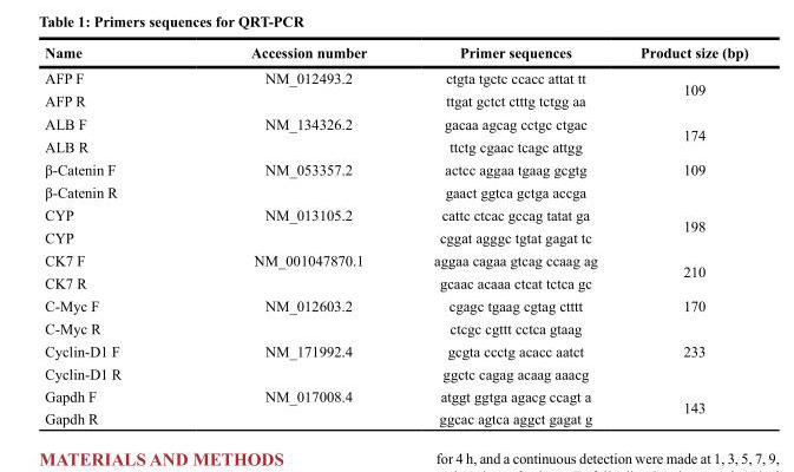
<table><thead><tr><td>Name</td><td>Accession number</td><td>Primer sequences</td><td>Product size (bp)</td></tr></thead><tbody><tr><td>AFP F</td><td>NM_012493.2</td><td>ctgta tgctc ccacc attat tt</td><td rowspan="2">109</td></tr><tr><td>AFP R</td><td></td><td>ttgat gctct ctttg tctgg aa</td></tr><tr><td>ALB F</td><td>NM_134326.2</td><td>gacaa agcag cctgc ctgac</td><td rowspan="2">174</td></tr><tr><td>ALB R</td><td></td><td>ttctg cgaac tcagc attgg</td></tr><tr><td>β-Catenin F</td><td>NM_053357.2</td><td>actcc aggaa tgaag gcgtg</td><td>109</td></tr><tr><td>β-Catenin R</td><td></td><td>gaact ggtca gctga accga</td><td></td></tr><tr><td>CYP</td><td>NM_013105.2</td><td>cattc ctcac gccag tatat ga</td><td rowspan="2">198</td></tr><tr><td>CYP</td><td></td><td>cggat agggc tgtat gagat tc</td></tr><tr><td>CK7 F</td><td>NM_001047870.1</td><td>aggaa cagaa gtcag ccaag ag</td><td rowspan="2">210</td></tr><tr><td>CK7 R</td><td></td><td>gcaac acaaa ctcat tctca gc</td></tr><tr><td>C-Myc F</td><td>NM_012603.2</td><td>cgagc tgaag cgtag ctttt</td><td>170</td></tr><tr><td>C-Myc R</td><td></td><td>ctcgc cgttt cctca gtaag</td><td></td></tr><tr><td>Cyclin-D1 F</td><td>NM_171992.4</td><td>gcgta ccctg acacc aatct</td><td>233</td></tr><tr><td>Cyclin-D1 R</td><td></td><td>ggctc cagag acaag aaacg</td><td></td></tr><tr><td>Gapdh F</td><td>NM_017008.4</td><td>atggt ggtga agacg ccagt a</td><td rowspan="2">143</td></tr><tr><td>Gapdh R</td><td></td><td>ggcac agtca aggct gagat g</td></tr></tbody></table>